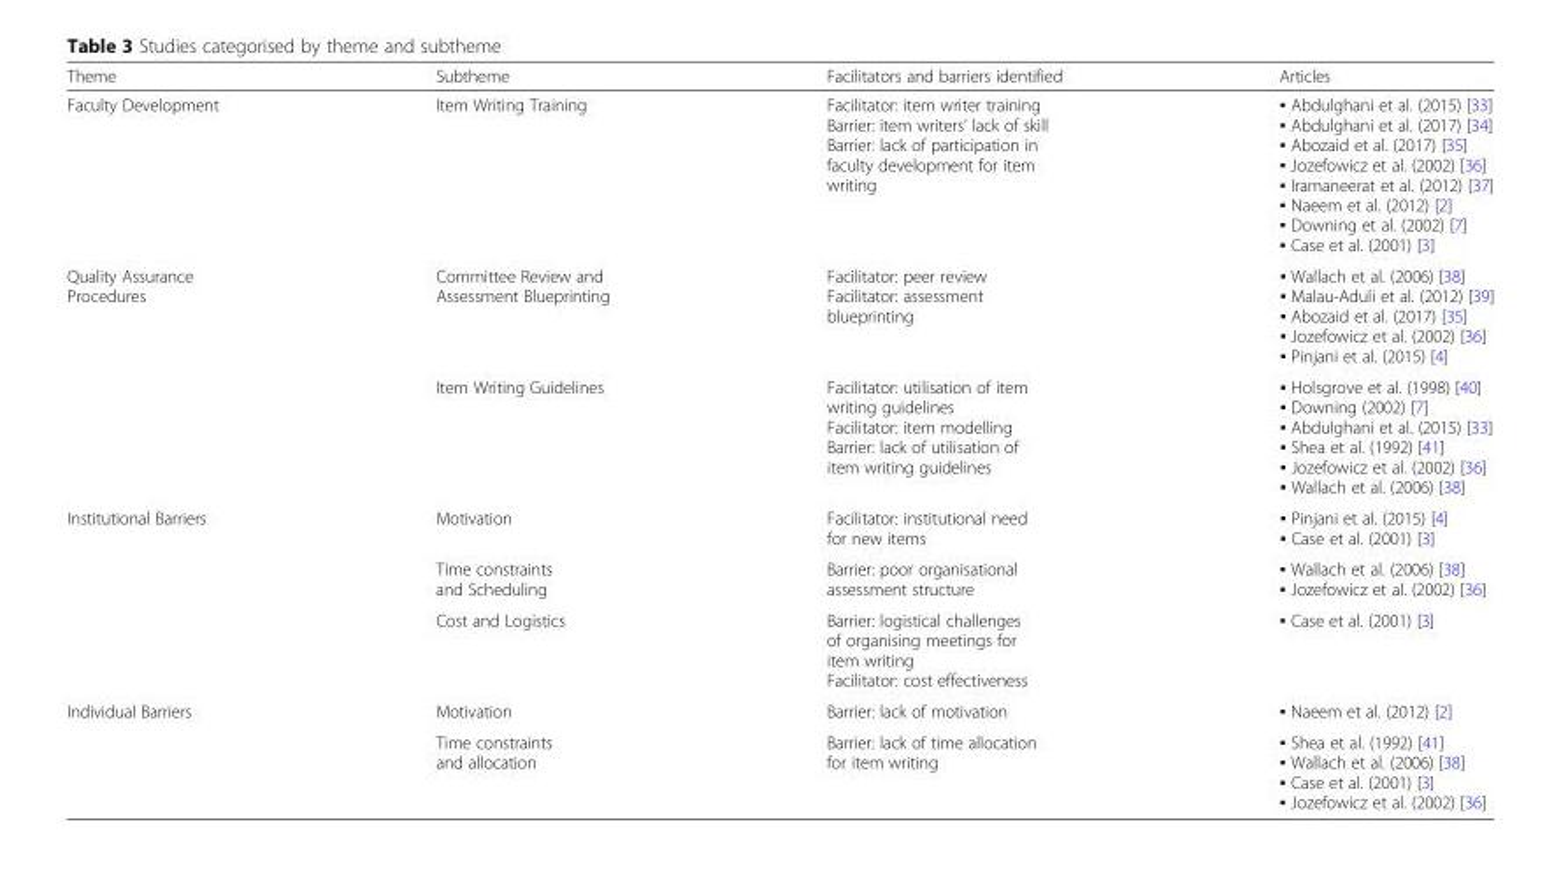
<table><thead><tr><td>Theme</td><td>Subtheme</td><td>Facilitators and barriers identified</td><td>Articles</td></tr></thead><tbody><tr><td>Faculty Development</td><td>Item Writing Training</td><td>Facilitator: item writer training Barrier: item writers’ lack of skill Barrier: lack of participation in faculty development for item writing</td><td>▪ Abdulghani et al. (2015) [33] ▪ Abdulghani et al. (2017) [34] ▪ Abozaid et al. (2017) [35] ▪ Jozefowicz et al. (2002) [36] ▪ Iramaneerat et al. (2012) [37] ▪ Naeem et al. (2012) [2] ▪ Downing et al. (2002) [7] ▪ Case et al. (2001) [3]</td></tr><tr><td rowspan="2">Quality Assurance Procedures</td><td>Committee Review and Assessment Blueprinting</td><td>Facilitator: peer review Facilitator: assessment blueprinting</td><td>▪ Wallach et al. (2006) [38] ▪ Malau-Aduli et al. (2012) [39] ▪ Abozaid et al. (2017) [35] ▪ Jozefowicz et al. (2002) [36] ▪ Pinjani et al. (2015) [4]</td></tr><tr><td>Item Writing Guidelines</td><td>Facilitator: utilisation of item writing guidelines Facilitator: item modelling Barrier: lack of utilisation of item writing guidelines</td><td>▪ Holsgrove et al. (1998) [40] ▪ Downing (2002) [7] ▪ Abdulghani et al. (2015) [33] ▪ Shea et al. (1992) [41] ▪ Jozefowicz et al. (2002) [36] ▪ Wallach et al. (2006) [38]</td></tr><tr><td rowspan="3">Institutional Barriers</td><td>Motivation</td><td>Facilitator: institutional need for new items</td><td>▪ Pinjani et al. (2015) [4] ▪ Case et al. (2001) [3]</td></tr><tr><td>Time constraints and Scheduling</td><td>Barrier: poor organisational assessment structure</td><td>▪ Wallach et al. (2006) [38] ▪ Jozefowicz et al. (2002) [36]</td></tr><tr><td>Cost and Logistics</td><td>Barrier: logistical challenges of organising meetings for item writing Facilitator: cost effectiveness</td><td>▪ Case et al. (2001) [3]</td></tr><tr><td rowspan="2">Individual Barriers</td><td>Motivation</td><td>Barrier: lack of motivation</td><td>▪ Naeem et al. (2012) [2]</td></tr><tr><td>Time constraints and allocation</td><td>Barrier: lack of time allocation for item writing</td><td>▪ Shea et al. (1992) [41] ▪ Wallach et al. (2006) [38] ▪ Case et al. (2001) [3] ▪ Jozefowicz et al. (2002) [36]</td></tr></tbody></table>